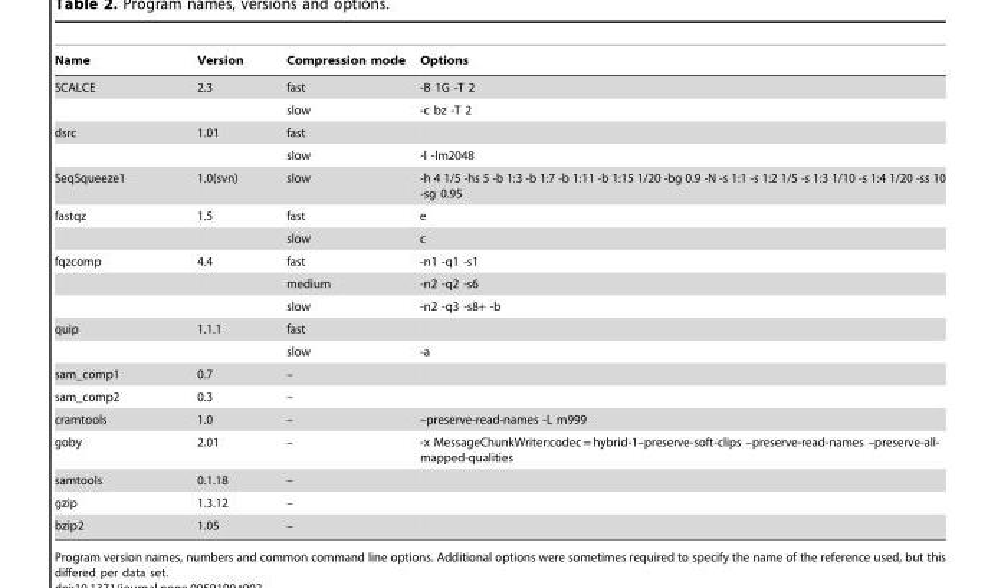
<table><thead><tr><td>Name</td><td>Version</td><td>Compression mode</td><td>Options</td></tr></thead><tbody><tr><td rowspan="2">SCALCE</td><td>2.3</td><td>fast</td><td>-B 1G -T 2</td></tr><tr><td></td><td>slow</td><td>-c bz -T 2</td></tr><tr><td rowspan="2">dsrc</td><td>1.01</td><td>fast</td><td></td></tr><tr><td></td><td>slow</td><td>-l -lm2048</td></tr><tr><td>SeqSqueeze1</td><td>1.0(svn)</td><td>slow</td><td>-h 4 1/5 -hs 5 -b 1:3 -b 1:7 -b 1:11 -b 1:15 1/20 -bg 0.9 -N -s 1:1 -s 1:2 1/5 -s 1:3 1/10 -s 1:4 1/20 -ss 10 -sg 0.95</td></tr><tr><td rowspan="2">fastqz</td><td>1.5</td><td>fast</td><td>e</td></tr><tr><td></td><td>slow</td><td>c</td></tr><tr><td rowspan="3">fqzcomp</td><td>4.4</td><td>fast</td><td>-n1 -q1 -s1</td></tr><tr><td></td><td>medium</td><td>-n2 -q2 -s6</td></tr><tr><td></td><td>slow</td><td>-n2 -q3 -s8+ -b</td></tr><tr><td rowspan="2">quip</td><td>1.1.1</td><td>fast</td><td></td></tr><tr><td></td><td>slow</td><td>-a</td></tr><tr><td>sam_comp1</td><td>0.7</td><td>–</td><td></td></tr><tr><td>sam_comp2</td><td>0.3</td><td>–</td><td></td></tr><tr><td>cramtools</td><td>1.0</td><td>–</td><td>–preserve-read-names -L m999</td></tr><tr><td>goby</td><td>2.01</td><td>–</td><td>-x MessageChunkWriter:codec = hybrid-1–preserve-soft-clips –preserve-read-names –preserve-all- mapped-qualities</td></tr><tr><td>samtools</td><td>0.1.18</td><td>–</td><td></td></tr><tr><td>gzip</td><td>1.3.12</td><td>–</td><td></td></tr><tr><td>bzip2</td><td>1.05</td><td>–</td><td></td></tr></tbody></table>